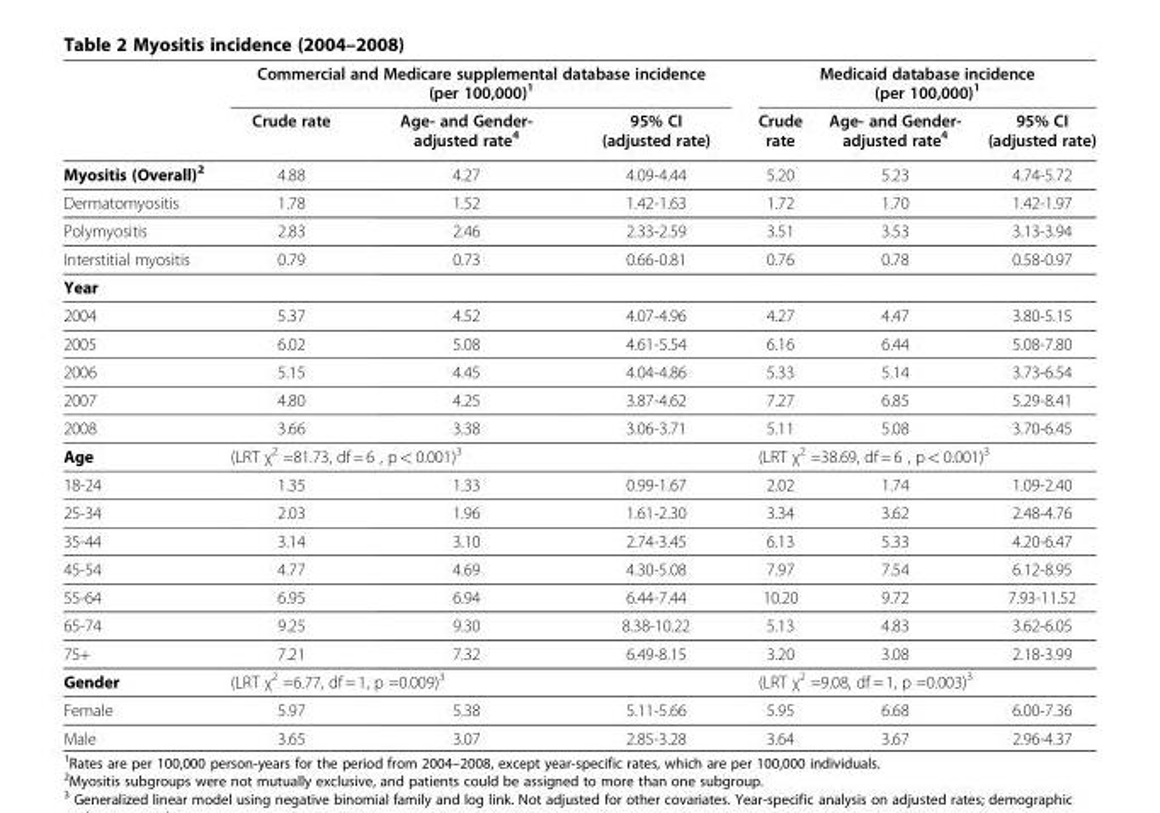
<table><thead><tr><td rowspan="2"></td><td colspan="3">Commercial and Medicare supplemental database incidence (per 100,000)<sup>1</sup></td><td colspan="3">Medicaid database incidence (per 100,000)<sup>1</sup></td></tr><tr><td>Crude rate</td><td>Age- and Gender- adjusted rate<sup>4</sup></td><td>95% CI (adjusted rate)</td><td>Crude rate</td><td>Age- and Gender- adjusted rate<sup>4</sup></td><td>95% CI (adjusted rate)</td></tr></thead><tbody><tr><td>Myositis (Overall)<sup>2</sup></td><td>4.88</td><td>4.27</td><td>4.09-4.44</td><td>5.20</td><td>5.23</td><td>4.74-5.72</td></tr><tr><td>Dermatomyositis</td><td>1.78</td><td>1.52</td><td>1.42-1.63</td><td>1.72</td><td>1.70</td><td>1.42-1.97</td></tr><tr><td>Polymyositis</td><td>2.83</td><td>2.46</td><td>2.33-2.59</td><td>3.51</td><td>3.53</td><td>3.13-3.94</td></tr><tr><td>Interstitial myositis</td><td>0.79</td><td>0.73</td><td>0.66-0.81</td><td>0.76</td><td>0.78</td><td>0.58-0.97</td></tr><tr><td colspan="7">Year</td></tr><tr><td>2004</td><td>5.37</td><td>4.52</td><td>4.07-4.96</td><td>4.27</td><td>4.47</td><td>3.80-5.15</td></tr><tr><td>2005</td><td>6.02</td><td>5.08</td><td>4.61-5.54</td><td>6.16</td><td>6.44</td><td>5.08-7.80</td></tr><tr><td>2006</td><td>5.15</td><td>4.45</td><td>4.04-4.86</td><td>5.33</td><td>5.14</td><td>3.73-6.54</td></tr><tr><td>2007</td><td>4.80</td><td>4.25</td><td>3.87-4.62</td><td>7.27</td><td>6.85</td><td>5.29-8.41</td></tr><tr><td>2008</td><td>3.66</td><td>3.38</td><td>3.06-3.71</td><td>5.11</td><td>5.08</td><td>3.70-6.45</td></tr><tr><td>Age</td><td colspan="3">(LRT χ<sup>2</sup> =81.73, df = 6 , p &lt; 0.001)<sup>3</sup></td><td colspan="3">(LRT χ<sup>2</sup> =38.69, df = 6 , p &lt; 0.001)<sup>3</sup></td></tr><tr><td>18-24</td><td>1.35</td><td>1.33</td><td>0.99-1.67</td><td>2.02</td><td>1.74</td><td>1.09-2.40</td></tr><tr><td>25-34</td><td>2.03</td><td>1.96</td><td>1.61-2.30</td><td>3.34</td><td>3.62</td><td>2.48-4.76</td></tr><tr><td>35-44</td><td>3.14</td><td>3.10</td><td>2.74-3.45</td><td>6.13</td><td>5.33</td><td>4.20-6.47</td></tr><tr><td>45-54</td><td>4.77</td><td>4.69</td><td>4.30-5.08</td><td>7.97</td><td>7.54</td><td>6.12-8.95</td></tr><tr><td>55-64</td><td>6.95</td><td>6.94</td><td>6.44-7.44</td><td>10.20</td><td>9.72</td><td>7.93-11.52</td></tr><tr><td>65-74</td><td>9.25</td><td>9.30</td><td>8.38-10.22</td><td>5.13</td><td>4.83</td><td>3.62-6.05</td></tr><tr><td>75+</td><td>7.21</td><td>7.32</td><td>6.49-8.15</td><td>3.20</td><td>3.08</td><td>2.18-3.99</td></tr><tr><td>Gender</td><td colspan="3">(LRT χ<sup>2</sup> =6.77, df = 1, p =0.009)<sup>3</sup></td><td colspan="3">(LRT χ<sup>2</sup> =9.08, df = 1, p =0.003)<sup>3</sup></td></tr><tr><td>Female</td><td>5.97</td><td>5.38</td><td>5.11-5.66</td><td>5.95</td><td>6.68</td><td>6.00-7.36</td></tr><tr><td>Male</td><td>3.65</td><td>3.07</td><td>2.85-3.28</td><td>3.64</td><td>3.67</td><td>2.96-4.37</td></tr></tbody></table>